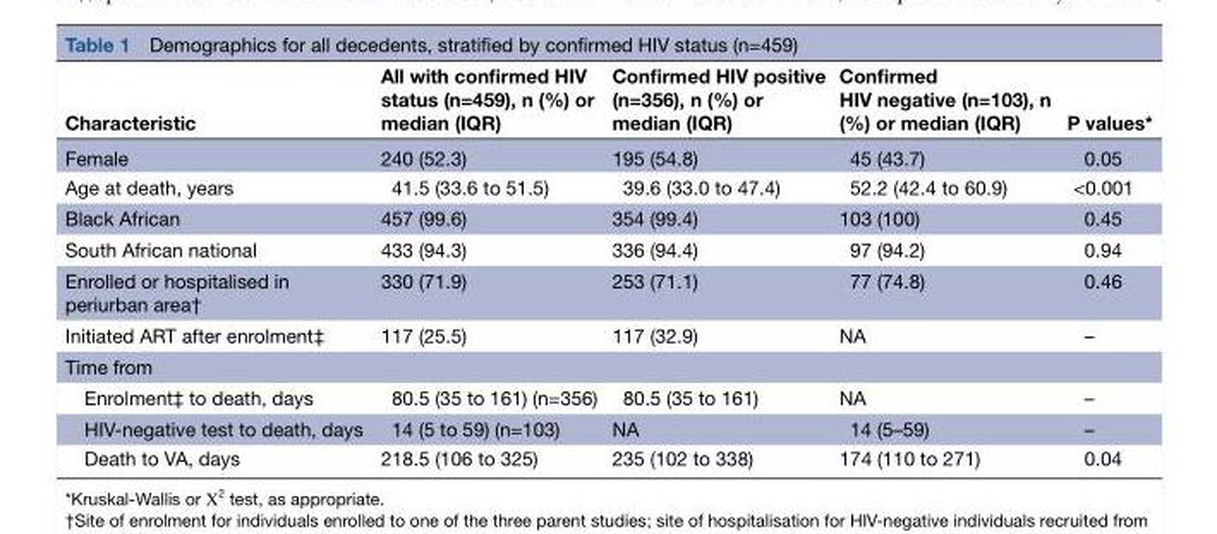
<table><thead><tr><td>Characteristic</td><td>All with confirmed HIV status (n=459), n (%) or median (IQR)</td><td>Confirmed HIV positive (n=356), n (%) or median (IQR)</td><td>Confirmed HIV negative (n=103), n (%) or median (IQR)</td><td>P values*</td></tr></thead><tbody><tr><td>Female</td><td>240 (52.3)</td><td>195 (54.8)</td><td>45 (43.7)</td><td>0.05</td></tr><tr><td>Age at death, years</td><td>41.5 (33.6 to 51.5)</td><td>39.6 (33.0 to 47.4)</td><td>52.2 (42.4 to 60.9)</td><td>&lt;0.001</td></tr><tr><td>Black African</td><td>457 (99.6)</td><td>354 (99.4)</td><td>103 (100)</td><td>0.45</td></tr><tr><td>South African national</td><td>433 (94.3)</td><td>336 (94.4)</td><td>97 (94.2)</td><td>0.94</td></tr><tr><td>Enrolled or hospitalised in periurban area†</td><td>330 (71.9)</td><td>253 (71.1)</td><td>77 (74.8)</td><td>0.46</td></tr><tr><td>Initiated ART after enrolment‡</td><td>117 (25.5)</td><td>117 (32.9)</td><td>NA</td><td>–</td></tr><tr><td colspan="5">Time from</td></tr><tr><td>Enrolment‡ to death, days</td><td>80.5 (35 to 161) (n=356)</td><td>80.5 (35 to 161)</td><td>NA</td><td>–</td></tr><tr><td>HIV-negative test to death, days</td><td>14 (5 to 59) (n=103)</td><td>NA</td><td>14 (5–59)</td><td>–</td></tr><tr><td>Death to VA, days</td><td>218.5 (106 to 325)</td><td>235 (102 to 338)</td><td>174 (110 to 271)</td><td>0.04</td></tr></tbody></table>